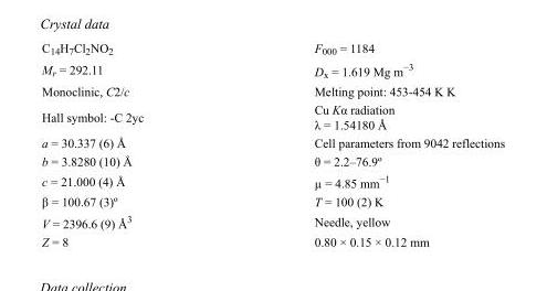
<table><tbody><tr><td>C<sub>14</sub>H<sub>7</sub>Cl<sub>2</sub>NO<sub>2</sub></td><td>F<sub>000</sub> = 1184</td></tr><tr><td>M<sub>r</sub> = 292.11</td><td>D<sub>x</sub> = 1.619 Mg m<sup>−3</sup></td></tr><tr><td>Monoclinic, C2/c</td><td>Melting point: 453-454 K K</td></tr><tr><td>Hall symbol: -C 2yc</td><td>Cu Kα radiation λ = 1.54180 Å</td></tr><tr><td>a = 30.337 (6) Å</td><td>Cell parameters from 9042 reflections</td></tr><tr><td>b = 3.8280 (10) Å</td><td>θ = 2.2–76.9º</td></tr><tr><td>c = 21.000 (4) Å</td><td>µ = 4.85 mm<sup>−1</sup></td></tr><tr><td>β = 100.67 (3)º</td><td>T = 100 (2) K</td></tr><tr><td>V = 2396.6 (9) Å<sup>3</sup></td><td>Needle, yellow</td></tr><tr><td>Z = 8</td><td>0.80 × 0.15 × 0.12 mm</td></tr></tbody></table>